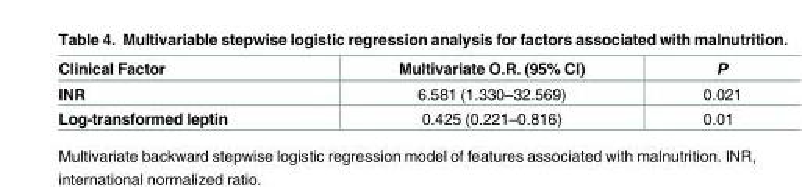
<table><thead><tr><td>Clinical Factor</td><td>Multivariate O.R. (95% CI)</td><td>P</td></tr></thead><tbody><tr><td>INR</td><td>6.581 (1.330–32.569)</td><td>0.021</td></tr><tr><td>Log-transformed leptin</td><td>0.425 (0.221–0.816)</td><td>0.01</td></tr></tbody></table>